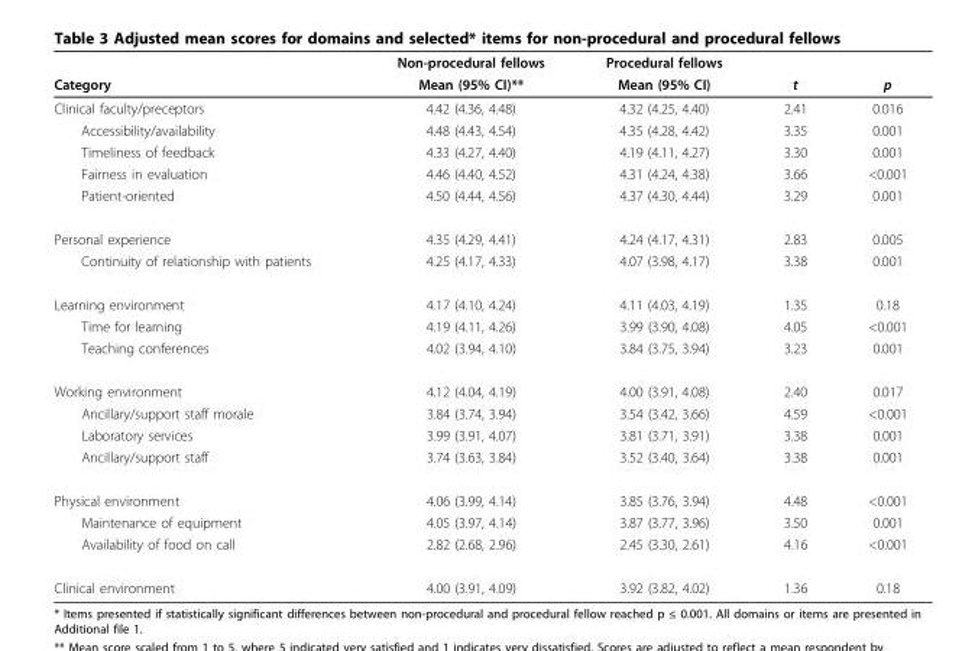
<table><thead><tr><td rowspan="2">Category</td><td rowspan="2">Non-procedural fellows Mean (95% CI)**</td><td rowspan="2">Procedural fellows Mean (95% CI)</td><td rowspan="2">t</td><td rowspan="2">p</td></tr><tr></tr></thead><tbody><tr><td>Clinical faculty/preceptors</td><td>4.42 (4.36, 4.48)</td><td>4.32 (4.25, 4.40)</td><td>2.41</td><td>0.016</td></tr><tr><td>Accessibility/availability</td><td>4.48 (4.43, 4.54)</td><td>4.35 (4.28, 4.42)</td><td>3.35</td><td>0.001</td></tr><tr><td>Timeliness of feedback</td><td>4.33 (4.27, 4.40)</td><td>4.19 (4.11, 4.27)</td><td>3.30</td><td>0.001</td></tr><tr><td>Fairness in evaluation</td><td>4.46 (4.40, 4.52)</td><td>4.31 (4.24, 4.38)</td><td>3.66</td><td>&lt;0.001</td></tr><tr><td>Patient-oriented</td><td>4.50 (4.44, 4.56)</td><td>4.37 (4.30, 4.44)</td><td>3.29</td><td>0.001</td></tr><tr><td>Personal experience</td><td>4.35 (4.29, 4.41)</td><td>4.24 (4.17, 4.31)</td><td>2.83</td><td>0.005</td></tr><tr><td>Continuity of relationship with patients</td><td>4.25 (4.17, 4.33)</td><td>4.07 (3.98, 4.17)</td><td>3.38</td><td>0.001</td></tr><tr><td>Learning environment</td><td>4.17 (4.10, 4.24)</td><td>4.11 (4.03, 4.19)</td><td>1.35</td><td>0.18</td></tr><tr><td>Time for learning</td><td>4.19 (4.11, 4.26)</td><td>3.99 (3.90, 4.08)</td><td>4.05</td><td>&lt;0.001</td></tr><tr><td>Teaching conferences</td><td>4.02 (3.94, 4.10)</td><td>3.84 (3.75, 3.94)</td><td>3.23</td><td>0.001</td></tr><tr><td>Working environment</td><td>4.12 (4.04, 4.19)</td><td>4.00 (3.91, 4.08)</td><td>2.40</td><td>0.017</td></tr><tr><td>Ancillary/support staff morale</td><td>3.84 (3.74, 3.94)</td><td>3.54 (3.42, 3.66)</td><td>4.59</td><td>&lt;0.001</td></tr><tr><td>Laboratory services</td><td>3.99 (3.91, 4.07)</td><td>3.81 (3.71, 3.91)</td><td>3.38</td><td>0.001</td></tr><tr><td>Ancillary/support staff</td><td>3.74 (3.63, 3.84)</td><td>3.52 (3.40, 3.64)</td><td>3.38</td><td>0.001</td></tr><tr><td>Physical environment</td><td>4.06 (3.99, 4.14)</td><td>3.85 (3.76, 3.94)</td><td>4.48</td><td>&lt;0.001</td></tr><tr><td>Maintenance of equipment</td><td>4.05 (3.97, 4.14)</td><td>3.87 (3.77, 3.96)</td><td>3.50</td><td>0.001</td></tr><tr><td>Availability of food on call</td><td>2.82 (2.68, 2.96)</td><td>2.45 (3.30, 2.61)</td><td>4.16</td><td>&lt;0.001</td></tr><tr><td>Clinical environment</td><td>4.00 (3.91, 4.09)</td><td>3.92 (3.82, 4.02)</td><td>1.36</td><td>0.18</td></tr></tbody></table>